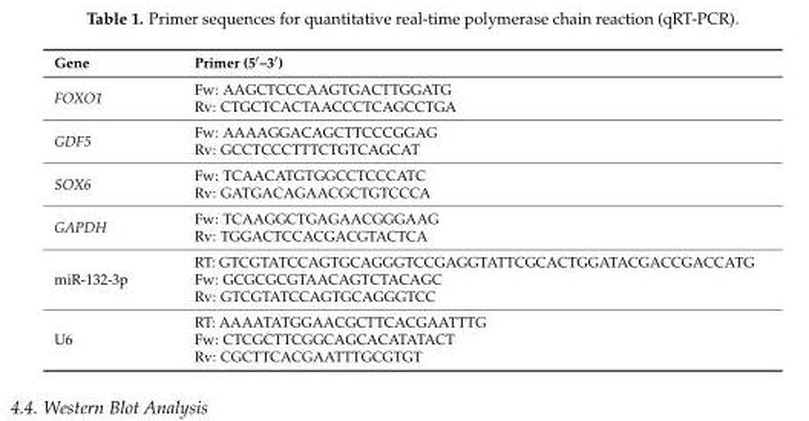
<table><thead><tr><td>Gene</td><td>Primer (5′–3′)</td></tr></thead><tbody><tr><td>FOXO1</td><td>Fw: AAGCTCCCAAGTGACTTGGATG Rv: CTGCTCACTAACCCTCAGCCTGA</td></tr><tr><td>GDF5</td><td>Fw: AAAAGGACAGCTTCCCGGAG Rv: GCCTCCCTTTCTGTCAGCAT</td></tr><tr><td>SOX6</td><td>Fw: TCAACATGTGGCCTCCCATC Rv: GATGACAGAACGCTGTCCCA</td></tr><tr><td>GAPDH</td><td>Fw: TCAAGGCTGAGAACGGGAAG Rv: TGGACTCCACGACGTACTCA</td></tr><tr><td>miR-132-3p</td><td>RT: GTCGTATCCAGTGCAGGGTCCGAGGTATTCGCACTGGATACGACCGACCATG Fw: GCGCGCGTAACAGTCTACAGC Rv: GTCGTATCCAGTGCAGGGTCC</td></tr><tr><td>U6</td><td>RT: AAAATATGGAACGCTTCACGAATTTG Fw: CTCGCTTCGGCAGCACATATACT Rv: CGCTTCACGAATTTGCGTGT</td></tr></tbody></table>